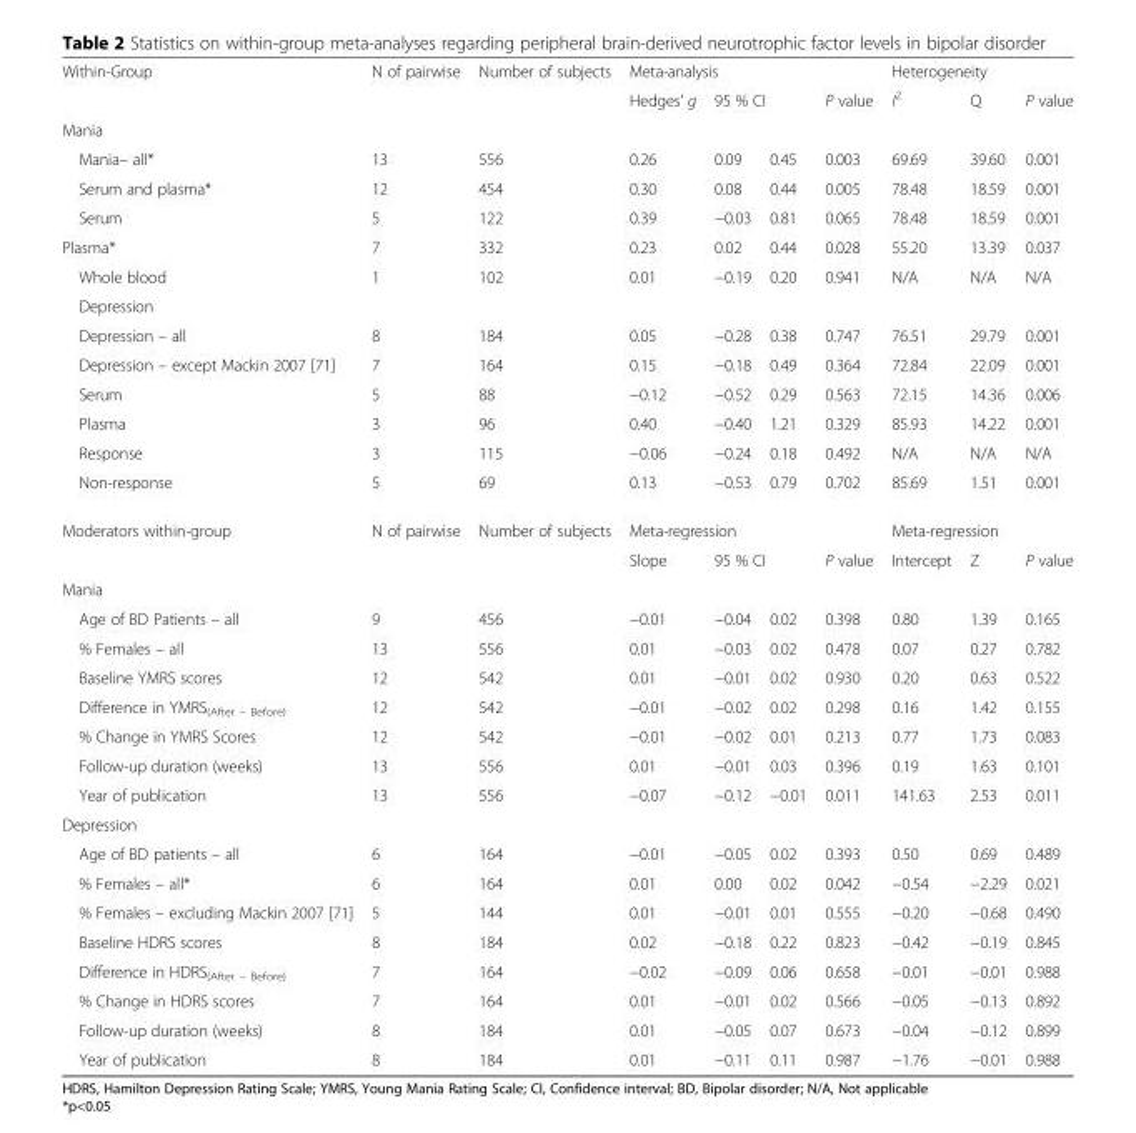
<table><tbody><tr><td rowspan="2">Within-Group</td><td rowspan="2">N of pairwise</td><td rowspan="2">Number of subjects</td><td colspan="4">Meta-analysis</td><td colspan="3">Heterogeneity</td></tr><tr><td>Hedges’ g</td><td colspan="2">95 % CI</td><td>P value</td><td>I<sup>2</sup></td><td>Q</td><td>P value</td></tr><tr><td colspan="10">Mania</td></tr><tr><td>Mania– all*</td><td>13</td><td>556</td><td>0.26</td><td>0.09</td><td>0.45</td><td>0.003</td><td>69.69</td><td>39.60</td><td>0.001</td></tr><tr><td>Serum and plasma*</td><td>12</td><td>454</td><td>0.30</td><td>0.08</td><td>0.44</td><td>0.005</td><td>78.48</td><td>18.59</td><td>0.001</td></tr><tr><td>Serum</td><td>5</td><td>122</td><td>0.39</td><td>−0.03</td><td>0.81</td><td>0.065</td><td>78.48</td><td>18.59</td><td>0.001</td></tr><tr><td>Plasma*</td><td>7</td><td>332</td><td>0.23</td><td>0.02</td><td>0.44</td><td>0.028</td><td>55.20</td><td>13.39</td><td>0.037</td></tr><tr><td>Whole blood</td><td>1</td><td>102</td><td>0.01</td><td>−0.19</td><td>0.20</td><td>0.941</td><td>N/A</td><td>N/A</td><td>N/A</td></tr><tr><td colspan="10">Depression</td></tr><tr><td>Depression – all</td><td>8</td><td>184</td><td>0.05</td><td>−0.28</td><td>0.38</td><td>0.747</td><td>76.51</td><td>29.79</td><td>0.001</td></tr><tr><td>Depression – except Mackin 2007 [71]</td><td>7</td><td>164</td><td>0.15</td><td>−0.18</td><td>0.49</td><td>0.364</td><td>72.84</td><td>22.09</td><td>0.001</td></tr><tr><td>Serum</td><td>5</td><td>88</td><td>−0.12</td><td>−0.52</td><td>0.29</td><td>0.563</td><td>72.15</td><td>14.36</td><td>0.006</td></tr><tr><td>Plasma</td><td>3</td><td>96</td><td>0.40</td><td>−0.40</td><td>1.21</td><td>0.329</td><td>85.93</td><td>14.22</td><td>0.001</td></tr><tr><td>Response</td><td>3</td><td>115</td><td>−0.06</td><td>−0.24</td><td>0.18</td><td>0.492</td><td>N/A</td><td>N/A</td><td>N/A</td></tr><tr><td>Non-response</td><td>5</td><td>69</td><td>0.13</td><td>−0.53</td><td>0.79</td><td>0.702</td><td>85.69</td><td>1.51</td><td>0.001</td></tr><tr><td rowspan="2">Moderators within-group</td><td>N of pairwise</td><td>Number of subjects</td><td colspan="4">Meta-regression</td><td colspan="3">Meta-regression</td></tr><tr><td></td><td></td><td>Slope</td><td colspan="2">95 % CI</td><td>P value</td><td>Intercept</td><td>Z</td><td>P value</td></tr><tr><td colspan="10">Mania</td></tr><tr><td>Age of BD Patients – all</td><td>9</td><td>456</td><td>−0.01</td><td>−0.04</td><td>0.02</td><td>0.398</td><td>0.80</td><td>1.39</td><td>0.165</td></tr><tr><td>% Females – all</td><td>13</td><td>556</td><td>0.01</td><td>−0.03</td><td>0.02</td><td>0.478</td><td>0.07</td><td>0.27</td><td>0.782</td></tr><tr><td>Baseline YMRS scores</td><td>12</td><td>542</td><td>0.01</td><td>−0.01</td><td>0.02</td><td>0.930</td><td>0.20</td><td>0.63</td><td>0.522</td></tr><tr><td>Difference in YMRS<sub>(After – Before)</sub></td><td>12</td><td>542</td><td>−0.01</td><td>−0.02</td><td>0.02</td><td>0.298</td><td>0.16</td><td>1.42</td><td>0.155</td></tr><tr><td>% Change in YMRS Scores</td><td>12</td><td>542</td><td>−0.01</td><td>−0.02</td><td>0.01</td><td>0.213</td><td>0.77</td><td>1.73</td><td>0.083</td></tr><tr><td>Follow-up duration (weeks)</td><td>13</td><td>556</td><td>0.01</td><td>−0.01</td><td>0.03</td><td>0.396</td><td>0.19</td><td>1.63</td><td>0.101</td></tr><tr><td>Year of publication</td><td>13</td><td>556</td><td>−0.07</td><td>−0.12</td><td>−0.01</td><td>0.011</td><td>141.63</td><td>2.53</td><td>0.011</td></tr><tr><td colspan="10">Depression</td></tr><tr><td>Age of BD patients – all</td><td>6</td><td>164</td><td>−0.01</td><td>−0.05</td><td>0.02</td><td>0.393</td><td>0.50</td><td>0.69</td><td>0.489</td></tr><tr><td>% Females – all*</td><td>6</td><td>164</td><td>0.01</td><td>0.00</td><td>0.02</td><td>0.042</td><td>−0.54</td><td>−2.29</td><td>0.021</td></tr><tr><td>% Females – excluding Mackin 2007 [71]</td><td>5</td><td>144</td><td>0.01</td><td>−0.01</td><td>0.01</td><td>0.555</td><td>−0.20</td><td>−0.68</td><td>0.490</td></tr><tr><td>Baseline HDRS scores</td><td>8</td><td>184</td><td>0.02</td><td>−0.18</td><td>0.22</td><td>0.823</td><td>−0.42</td><td>−0.19</td><td>0.845</td></tr><tr><td>Difference in HDRS<sub>(After – Before)</sub></td><td>7</td><td>164</td><td>−0.02</td><td>−0.09</td><td>0.06</td><td>0.658</td><td>−0.01</td><td>−0.01</td><td>0.988</td></tr><tr><td>% Change in HDRS scores</td><td>7</td><td>164</td><td>0.01</td><td>−0.01</td><td>0.02</td><td>0.566</td><td>−0.05</td><td>−0.13</td><td>0.892</td></tr><tr><td>Follow-up duration (weeks)</td><td>8</td><td>184</td><td>0.01</td><td>−0.05</td><td>0.07</td><td>0.673</td><td>−0.04</td><td>−0.12</td><td>0.899</td></tr><tr><td>Year of publication</td><td>8</td><td>184</td><td>0.01</td><td>−0.11</td><td>0.11</td><td>0.987</td><td>−1.76</td><td>−0.01</td><td>0.988</td></tr></tbody></table>